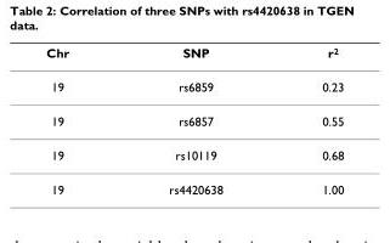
<table><thead><tr><td>Chr</td><td>SNP</td><td>r<sup>2</sup></td></tr></thead><tbody><tr><td>19</td><td>rs6859</td><td>0.23</td></tr><tr><td>19</td><td>rs6857</td><td>0.55</td></tr><tr><td>19</td><td>rs10119</td><td>0.68</td></tr><tr><td>19</td><td>rs4420638</td><td>1.00</td></tr></tbody></table>